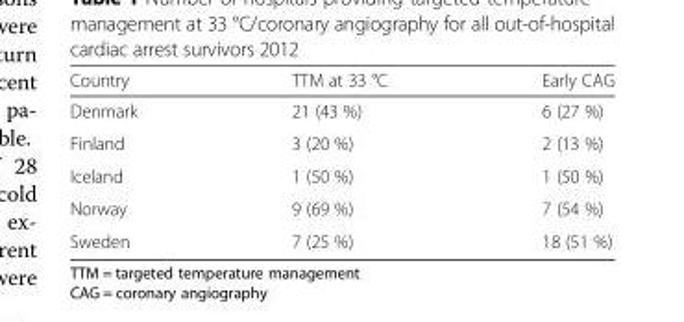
<table><thead><tr><td>Country</td><td>TTM at 33 °C</td><td>Early CAG</td></tr></thead><tbody><tr><td>Denmark</td><td>21 (43 %)</td><td>6 (27 %)</td></tr><tr><td>Finland</td><td>3 (20 %)</td><td>2 (13 %)</td></tr><tr><td>Iceland</td><td>1 (50 %)</td><td>1 (50 %)</td></tr><tr><td>Norway</td><td>9 (69 %)</td><td>7 (54 %)</td></tr><tr><td>Sweden</td><td>7 (25 %)</td><td>18 (51 %)</td></tr></tbody></table>